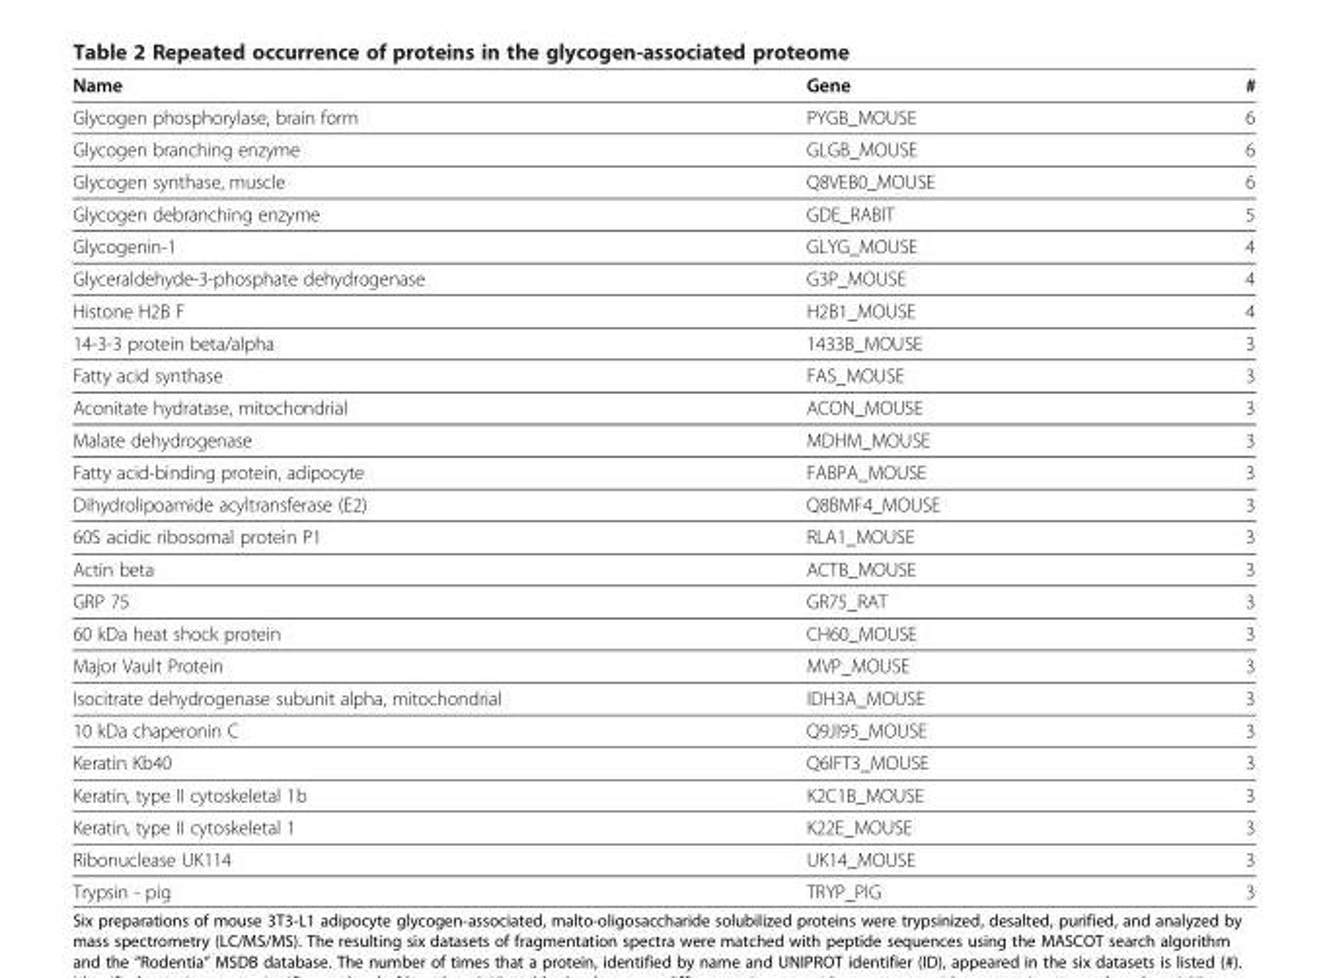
<table><thead><tr><td>Name</td><td>Gene</td><td>#</td></tr></thead><tbody><tr><td>Glycogen phosphorylase, brain form</td><td>PYGB_MOUSE</td><td>6</td></tr><tr><td>Glycogen branching enzyme</td><td>GLGB_MOUSE</td><td>6</td></tr><tr><td>Glycogen synthase, muscle</td><td>Q8VEB0_MOUSE</td><td>6</td></tr><tr><td>Glycogen debranching enzyme</td><td>GDE_RABIT</td><td>5</td></tr><tr><td>Glycogenin-1</td><td>GLYG_MOUSE</td><td>4</td></tr><tr><td>Glyceraldehyde-3-phosphate dehydrogenase</td><td>G3P_MOUSE</td><td>4</td></tr><tr><td>Histone H2B F</td><td>H2B1_MOUSE</td><td>4</td></tr><tr><td>14-3-3 protein beta/alpha</td><td>1433B_MOUSE</td><td>3</td></tr><tr><td>Fatty acid synthase</td><td>FAS_MOUSE</td><td>3</td></tr><tr><td>Aconitate hydratase, mitochondrial</td><td>ACON_MOUSE</td><td>3</td></tr><tr><td>Malate dehydrogenase</td><td>MDHM_MOUSE</td><td>3</td></tr><tr><td>Fatty acid-binding protein, adipocyte</td><td>FABPA_MOUSE</td><td>3</td></tr><tr><td>Dihydrolipoamide acyltransferase (E2)</td><td>Q8BMF4_MOUSE</td><td>3</td></tr><tr><td>60S acidic ribosomal protein P1</td><td>RLA1_MOUSE</td><td>3</td></tr><tr><td>Actin beta</td><td>ACTB_MOUSE</td><td>3</td></tr><tr><td>GRP 75</td><td>GR75_RAT</td><td>3</td></tr><tr><td>60 kDa heat shock protein</td><td>CH60_MOUSE</td><td>3</td></tr><tr><td>Major Vault Protein</td><td>MVP_MOUSE</td><td>3</td></tr><tr><td>Isocitrate dehydrogenase subunit alpha, mitochondrial</td><td>IDH3A_MOUSE</td><td>3</td></tr><tr><td>10 kDa chaperonin C</td><td>Q9JI95_MOUSE</td><td>3</td></tr><tr><td>Keratin Kb40</td><td>Q6IFT3_MOUSE</td><td>3</td></tr><tr><td>Keratin, type II cytoskeletal 1b</td><td>K2C1B_MOUSE</td><td>3</td></tr><tr><td>Keratin, type II cytoskeletal 1</td><td>K22E_MOUSE</td><td>3</td></tr><tr><td>Ribonuclease UK114</td><td>UK14_MOUSE</td><td>3</td></tr><tr><td>Trypsin - pig</td><td>TRYP_PIG</td><td>3</td></tr></tbody></table>